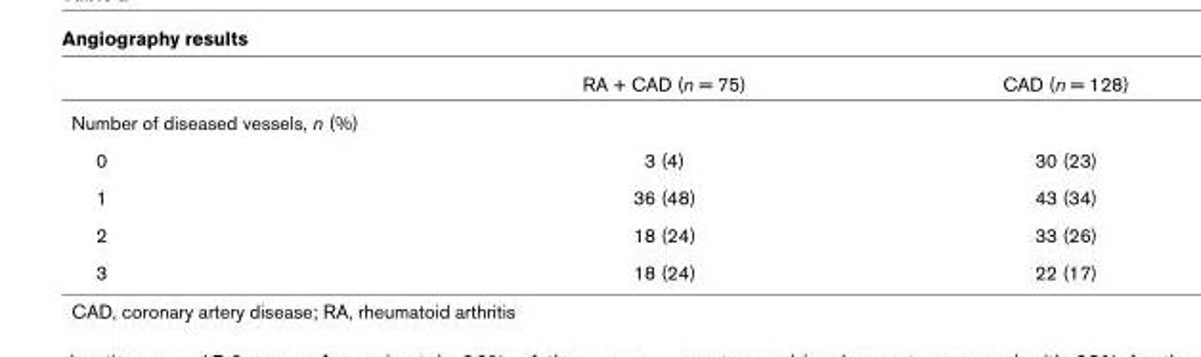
<table><thead><tr><td></td><td>RA + CAD (n = 75)</td><td>CAD (n = 128)</td></tr></thead><tbody><tr><td colspan="3">Number of diseased vessels, n (%)</td></tr><tr><td>0</td><td>3 (4)</td><td>30 (23)</td></tr><tr><td>1</td><td>36 (48)</td><td>43 (34)</td></tr><tr><td>2</td><td>18 (24)</td><td>33 (26)</td></tr><tr><td>3</td><td>18 (24)</td><td>22 (17)</td></tr></tbody></table>